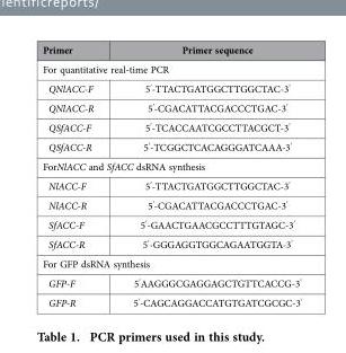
<table><thead><tr><td>Primer</td><td>Primer sequence</td></tr></thead><tbody><tr><td colspan="2">For quantitative real-time PCR</td></tr><tr><td>QNlACC-F</td><td>5<sup>′</sup>-TTACTGATGGCTTGGCTAC-3<sup>′</sup></td></tr><tr><td>QNlACC-R</td><td>5<sup>′</sup>-CGACATTACGACCCTGAC-3<sup>′</sup></td></tr><tr><td>QSfACC-F</td><td>5<sup>′</sup>-TCACCAATCGCCTTACGCT-3<sup>′</sup></td></tr><tr><td>QSfACC-R</td><td>5<sup>′</sup>-TCGGCTCACAGGGATCAAA-3<sup>′</sup></td></tr><tr><td colspan="2">ForNlACC and SfACC dsRNA synthesis</td></tr><tr><td>NlACC-F</td><td>5<sup>′</sup>-TTACTGATGGCTTGGCTAC-3<sup>′</sup></td></tr><tr><td>NlACC-R</td><td>5<sup>′</sup>-CGACATTACGACCCTGAC-3<sup>′</sup></td></tr><tr><td>SfACC-F</td><td>5<sup>′</sup>-GAACTGAACGCCTTTGTAGC-3<sup>′</sup></td></tr><tr><td>SfACC-R</td><td>5<sup>′</sup>-GGGAGGTGGCAGAATGGTA-3<sup>′</sup></td></tr><tr><td colspan="2">For GFP dsRNA synthesis</td></tr><tr><td>GFP-F</td><td>5<sup>′</sup>AAGGGCGAGGAGCTGTTCACCG-3<sup>′</sup></td></tr><tr><td>GFP-R</td><td>5<sup>′</sup>-CAGCAGGACCATGTGATCGCGC-3<sup>′</sup></td></tr></tbody></table>